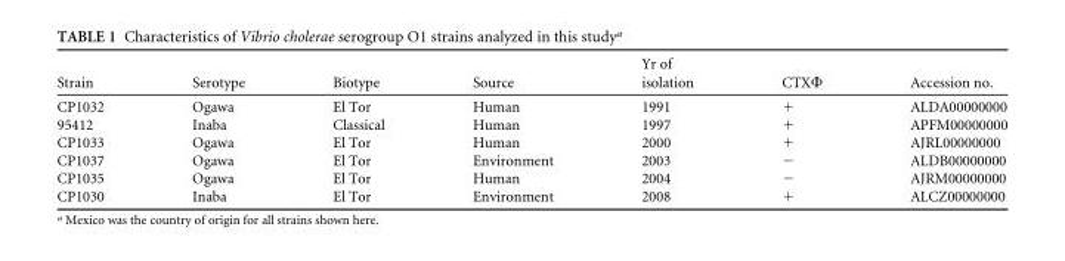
<table><thead><tr><td>Strain</td><td>Serotype</td><td>Biotype</td><td>Source</td><td>Yr of isolation</td><td>CTXΦ</td><td>Accession no.</td></tr></thead><tbody><tr><td>CP1032</td><td>Ogawa</td><td>El Tor</td><td>Human</td><td>1991</td><td>+</td><td>ALDA00000000</td></tr><tr><td>95412</td><td>Inaba</td><td>Classical</td><td>Human</td><td>1997</td><td>+</td><td>APFM00000000</td></tr><tr><td>CP1033</td><td>Ogawa</td><td>El Tor</td><td>Human</td><td>2000</td><td>+</td><td>AJRL00000000</td></tr><tr><td>CP1037</td><td>Ogawa</td><td>El Tor</td><td>Environment</td><td>2003</td><td>−</td><td>ALDB00000000</td></tr><tr><td>CP1035</td><td>Ogawa</td><td>El Tor</td><td>Human</td><td>2004</td><td>−</td><td>AJRM00000000</td></tr><tr><td>CP1030</td><td>Inaba</td><td>El Tor</td><td>Environment</td><td>2008</td><td>+</td><td>ALCZ00000000</td></tr></tbody></table>